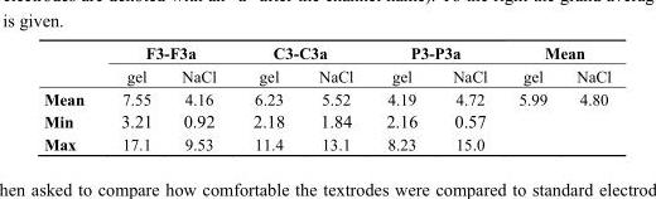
<table><thead><tr><td rowspan="2"></td><td colspan="2">F3-F3a</td><td colspan="2">C3-C3a</td><td colspan="2">P3-P3a</td><td colspan="2">Mean</td></tr><tr><td>gel</td><td>NaCl</td><td>gel</td><td>NaCl</td><td>gel</td><td>NaCl</td><td>gel</td><td>NaCl</td></tr></thead><tbody><tr><td>Mean</td><td>7.55</td><td>4.16</td><td>6.23</td><td>5.52</td><td>4.19</td><td>4.72</td><td>5.99</td><td>4.80</td></tr><tr><td>Min</td><td>3.21</td><td>0.92</td><td>2.18</td><td>1.84</td><td>2.16</td><td>0.57</td><td></td><td></td></tr><tr><td>Max</td><td>17.1</td><td>9.53</td><td>11.4</td><td>13.1</td><td>8.23</td><td>15.0</td><td></td><td></td></tr></tbody></table>